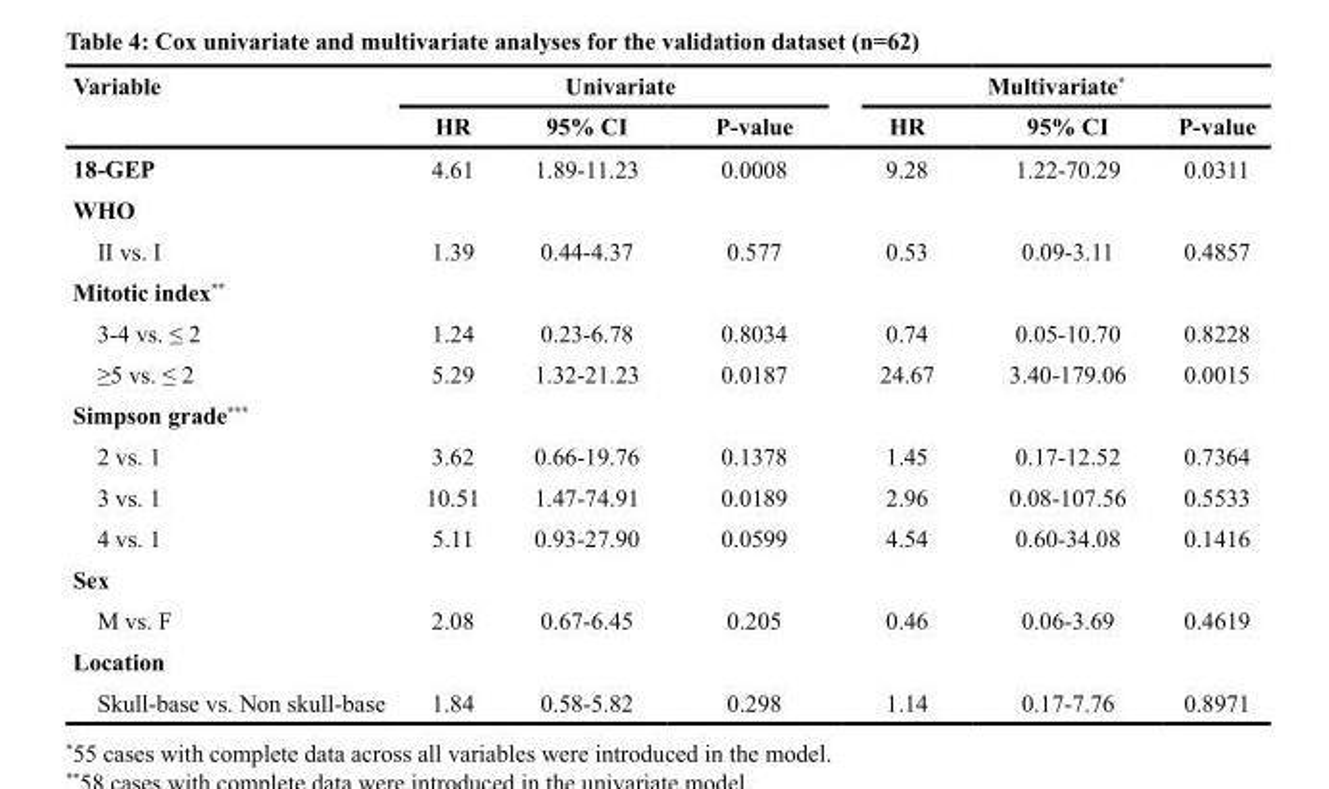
<table><thead><tr><td rowspan="2">Variable</td><td colspan="3">Univariate</td><td colspan="3">Multivariate*</td></tr><tr><td>HR</td><td>95% CI</td><td>P-value</td><td>HR</td><td>95% CI</td><td>P-value</td></tr></thead><tbody><tr><td>18-GEP</td><td>4.61</td><td>1.89-11.23</td><td>0.0008</td><td>9.28</td><td>1.22-70.29</td><td>0.0311</td></tr><tr><td colspan="7">WHO</td></tr><tr><td>II vs. I</td><td>1.39</td><td>0.44-4.37</td><td>0.577</td><td>0.53</td><td>0.09-3.11</td><td>0.4857</td></tr><tr><td colspan="7">Mitotic index**</td></tr><tr><td>3-4 vs. ≤ 2</td><td>1.24</td><td>0.23-6.78</td><td>0.8034</td><td>0.74</td><td>0.05-10.70</td><td>0.8228</td></tr><tr><td>≥5 vs. ≤ 2</td><td>5.29</td><td>1.32-21.23</td><td>0.0187</td><td>24.67</td><td>3.40-179.06</td><td>0.0015</td></tr><tr><td colspan="7">Simpson grade***</td></tr><tr><td>2 vs. 1</td><td>3.62</td><td>0.66-19.76</td><td>0.1378</td><td>1.45</td><td>0.17-12.52</td><td>0.7364</td></tr><tr><td>3 vs. 1</td><td>10.51</td><td>1.47-74.91</td><td>0.0189</td><td>2.96</td><td>0.08-107.56</td><td>0.5533</td></tr><tr><td>4 vs. 1</td><td>5.11</td><td>0.93-27.90</td><td>0.0599</td><td>4.54</td><td>0.60-34.08</td><td>0.1416</td></tr><tr><td colspan="7">Sex</td></tr><tr><td>M vs. F</td><td>2.08</td><td>0.67-6.45</td><td>0.205</td><td>0.46</td><td>0.06-3.69</td><td>0.4619</td></tr><tr><td colspan="7">Location</td></tr><tr><td>Skull-base vs. Non skull-base</td><td>1.84</td><td>0.58-5.82</td><td>0.298</td><td>1.14</td><td>0.17-7.76</td><td>0.8971</td></tr></tbody></table>